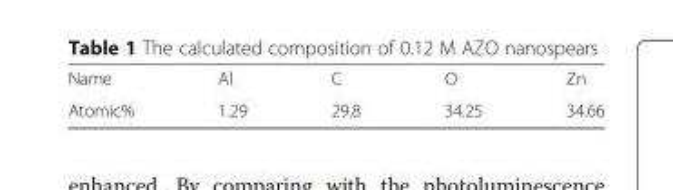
<table><tbody><tr><td>Name</td><td>Al</td><td>C</td><td>O</td><td>Zn</td></tr><tr><td>Atomic%</td><td>1.29</td><td>29.8</td><td>34.25</td><td>34.66</td></tr></tbody></table>